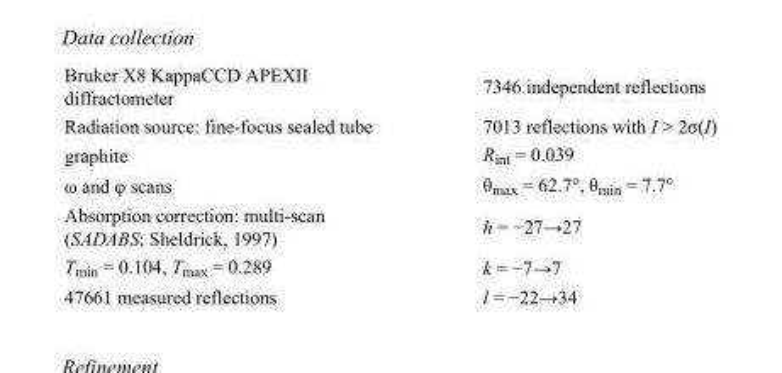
<table><tbody><tr><td>Bruker X8 KappaCCD APEXII diffractometer</td><td>7346 independent reflections</td></tr><tr><td>Radiation source: fine-focus sealed tube</td><td>7013 reflections with I &gt; 2σ(I)</td></tr><tr><td>graphite</td><td>R<sub>int</sub> = 0.039</td></tr><tr><td>ω and φ scans</td><td>θ<sub>max</sub> = 62.7°, θ<sub>min</sub> = 7.7°</td></tr><tr><td>Absorption correction: multi-scan (SADABS; Sheldrick, 1997)</td><td>h = −27→27</td></tr><tr><td>T<sub>min</sub> = 0.104, T<sub>max</sub> = 0.289</td><td>k = −7→7</td></tr><tr><td>47661 measured reflections</td><td>l = −22→34</td></tr></tbody></table>